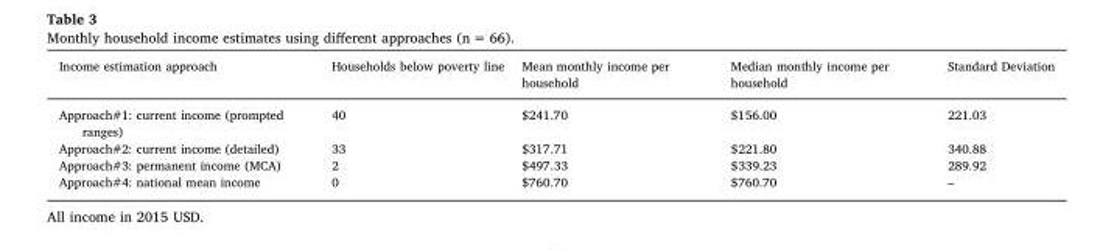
<table><thead><tr><td>Income estimation approach</td><td>Households below poverty line</td><td>Mean monthly income per household</td><td>Median monthly income per household</td><td>Standard Deviation</td></tr></thead><tbody><tr><td>Approach#1: current income (prompted ranges)</td><td>40</td><td>$241.70</td><td>$156.00</td><td>221.03</td></tr><tr><td>Approach#2: current income (detailed)</td><td>33</td><td>$317.71</td><td>$221.80</td><td>340.88</td></tr><tr><td>Approach#3: permanent income (MCA)</td><td>2</td><td>$497.33</td><td>$339.23</td><td>289.92</td></tr><tr><td>Approach#4: national mean income</td><td>0</td><td>$760.70</td><td>$760.70</td><td>–</td></tr></tbody></table>